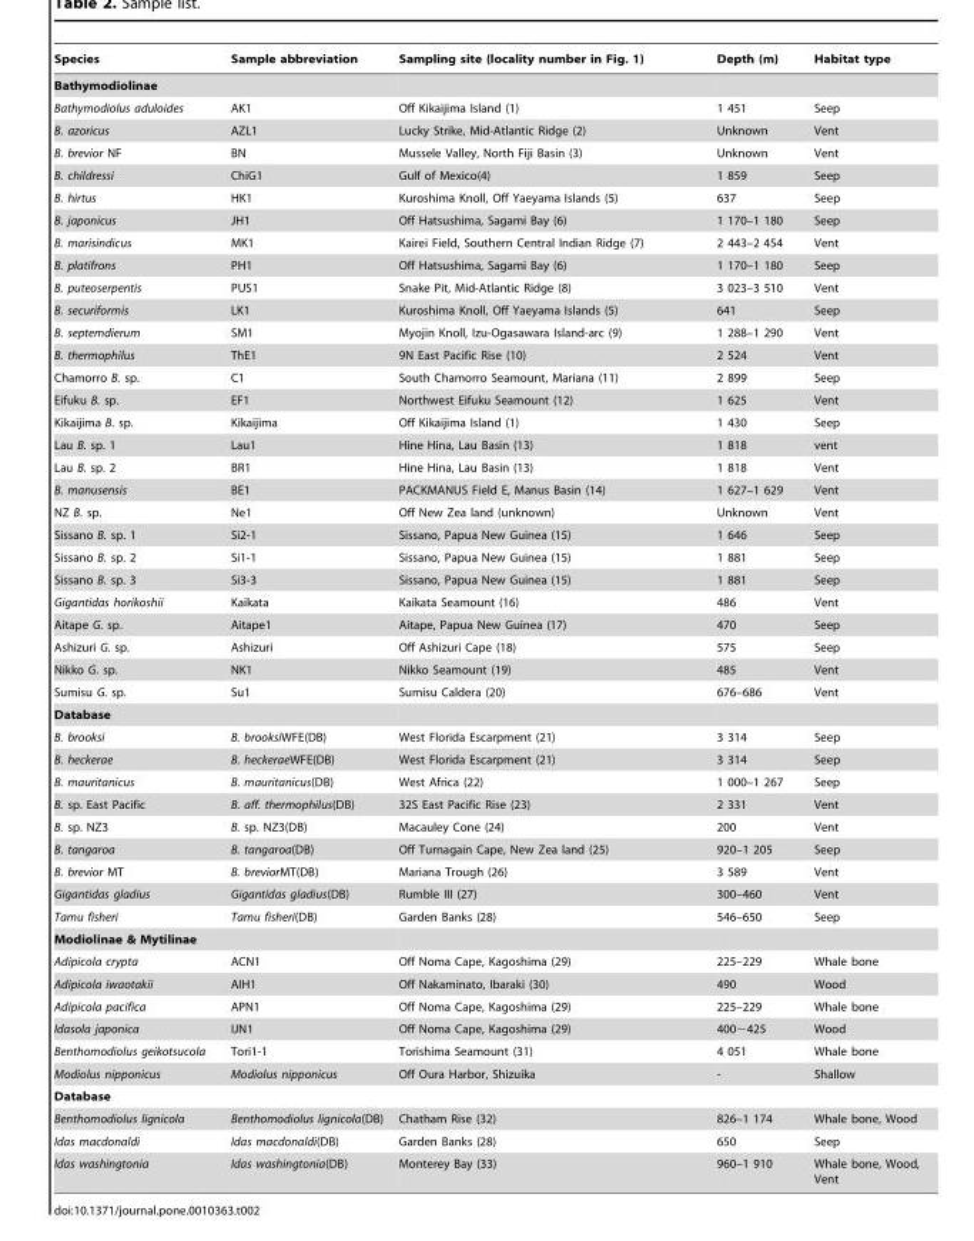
<table><thead><tr><td>Species</td><td>Sample abbreviation</td><td>Sampling site (locality number in Fig. 1)</td><td>Depth (m)</td><td>Habitat type</td></tr></thead><tbody><tr><td colspan="5">Bathymodiolinae</td></tr><tr><td>Bathymodiolus aduloides</td><td>AK1</td><td>Off Kikaijima Island (1)</td><td>1 451</td><td>Seep</td></tr><tr><td>B. azoricus</td><td>AZL1</td><td>Lucky Strike, Mid-Atlantic Ridge (2)</td><td>Unknown</td><td>Vent</td></tr><tr><td>B. brevior NF</td><td>BN</td><td>Mussele Valley, North Fiji Basin (3)</td><td>Unknown</td><td>Vent</td></tr><tr><td>B. childressi</td><td>ChiG1</td><td>Gulf of Mexico(4)</td><td>1 859</td><td>Seep</td></tr><tr><td>B. hirtus</td><td>HK1</td><td>Kuroshima Knoll, Off Yaeyama Islands (5)</td><td>637</td><td>Seep</td></tr><tr><td>B. japonicus</td><td>JH1</td><td>Off Hatsushima, Sagami Bay (6)</td><td>1 170–1 180</td><td>Seep</td></tr><tr><td>B. marisindicus</td><td>MK1</td><td>Kairei Field, Southern Central Indian Ridge (7)</td><td>2 443–2 454</td><td>Vent</td></tr><tr><td>B. platifrons</td><td>PH1</td><td>Off Hatsushima, Sagami Bay (6)</td><td>1 170–1 180</td><td>Seep</td></tr><tr><td>B. puteoserpentis</td><td>PUS1</td><td>Snake Pit, Mid-Atlantic Ridge (8)</td><td>3 023–3 510</td><td>Vent</td></tr><tr><td>B. securiformis</td><td>LK1</td><td>Kuroshima Knoll, Off Yaeyama Islands (5)</td><td>641</td><td>Seep</td></tr><tr><td>B. septemdierum</td><td>SM1</td><td>Myojin Knoll, Izu-Ogasawara Island-arc (9)</td><td>1 288–1 290</td><td>Vent</td></tr><tr><td>B. thermophilus</td><td>ThE1</td><td>9N East Pacific Rise (10)</td><td>2 524</td><td>Vent</td></tr><tr><td>Chamorro B. sp.</td><td>C1</td><td>South Chamorro Seamount, Mariana (11)</td><td>2 899</td><td>Seep</td></tr><tr><td>Eifuku B. sp.</td><td>EF1</td><td>Northwest Eifuku Seamount (12)</td><td>1 625</td><td>Vent</td></tr><tr><td>Kikaijima B. sp.</td><td>Kikaijima</td><td>Off Kikaijima Island (1)</td><td>1 430</td><td>Seep</td></tr><tr><td>Lau B. sp. 1</td><td>Lau1</td><td>Hine Hina, Lau Basin (13)</td><td>1 818</td><td>vent</td></tr><tr><td>Lau B. sp. 2</td><td>BR1</td><td>Hine Hina, Lau Basin (13)</td><td>1 818</td><td>Vent</td></tr><tr><td>B. manusensis</td><td>BE1</td><td>PACKMANUS Field E, Manus Basin (14)</td><td>1 627–1 629</td><td>Vent</td></tr><tr><td>NZ B. sp.</td><td>Ne1</td><td>Off New Zea land (unknown)</td><td>Unknown</td><td>Vent</td></tr><tr><td>Sissano B. sp. 1</td><td>Si2-1</td><td>Sissano, Papua New Guinea (15)</td><td>1 646</td><td>Seep</td></tr><tr><td>Sissano B. sp. 2</td><td>Si1-1</td><td>Sissano, Papua New Guinea (15)</td><td>1 881</td><td>Seep</td></tr><tr><td>Sissano B. sp. 3</td><td>Si3-3</td><td>Sissano, Papua New Guinea (15)</td><td>1 881</td><td>Seep</td></tr><tr><td>Gigantidas horikoshii</td><td>Kaikata</td><td>Kaikata Seamount (16)</td><td>486</td><td>Vent</td></tr><tr><td>Aitape G. sp.</td><td>Aitape1</td><td>Aitape, Papua New Guinea (17)</td><td>470</td><td>Seep</td></tr><tr><td>Ashizuri G. sp.</td><td>Ashizuri</td><td>Off Ashizuri Cape (18)</td><td>575</td><td>Seep</td></tr><tr><td>Nikko G. sp.</td><td>NK1</td><td>Nikko Seamount (19)</td><td>485</td><td>Vent</td></tr><tr><td>Sumisu G. sp.</td><td>Su1</td><td>Sumisu Caldera (20)</td><td>676–686</td><td>Vent</td></tr><tr><td colspan="5">Database</td></tr><tr><td>B. brooksi</td><td>B. brooksiWFE(DB)</td><td>West Florida Escarpment (21)</td><td>3 314</td><td>Seep</td></tr><tr><td>B. heckerae</td><td>B. heckeraeWFE(DB)</td><td>West Florida Escarpment (21)</td><td>3 314</td><td>Seep</td></tr><tr><td>B. mauritanicus</td><td>B. mauritanicus(DB)</td><td>West Africa (22)</td><td>1 000–1 267</td><td>Seep</td></tr><tr><td>B. sp. East Pacific</td><td>B. aff. thermophilus(DB)</td><td>32S East Pacific Rise (23)</td><td>2 331</td><td>Vent</td></tr><tr><td>B. sp. NZ3</td><td>B. sp. NZ3(DB)</td><td>Macauley Cone (24)</td><td>200</td><td>Vent</td></tr><tr><td>B. tangaroa</td><td>B. tangaroa(DB)</td><td>Off Turnagain Cape, New Zea land (25)</td><td>920–1 205</td><td>Seep</td></tr><tr><td>B. brevior MT</td><td>B. breviorMT(DB)</td><td>Mariana Trough (26)</td><td>3 589</td><td>Vent</td></tr><tr><td>Gigantidas gladius</td><td>Gigantidas gladius(DB)</td><td>Rumble III (27)</td><td>300–460</td><td>Vent</td></tr><tr><td>Tamu fisheri</td><td>Tamu fisheri(DB)</td><td>Garden Banks (28)</td><td>546–650</td><td>Seep</td></tr><tr><td colspan="5">Modiolinae &amp; Mytilinae</td></tr><tr><td>Adipicola crypta</td><td>ACN1</td><td>Off Noma Cape, Kagoshima (29)</td><td>225–229</td><td>Whale bone</td></tr><tr><td>Adipicola iwaotakii</td><td>AIH1</td><td>Off Nakaminato, Ibaraki (30)</td><td>490</td><td>Wood</td></tr><tr><td>Adipicola pacifica</td><td>APN1</td><td>Off Noma Cape, Kagoshima (29)</td><td>225–229</td><td>Whale bone</td></tr><tr><td>Idasola japonica</td><td>IJN1</td><td>Off Noma Cape, Kagoshima (29)</td><td>400∼425</td><td>Wood</td></tr><tr><td>Benthomodiolus geikotsucola</td><td>Tori1-1</td><td>Torishima Seamount (31)</td><td>4 051</td><td>Whale bone</td></tr><tr><td>Modiolus nipponicus</td><td>Modiolus nipponicus</td><td>Off Oura Harbor, Shizuika</td><td>-</td><td>Shallow</td></tr><tr><td colspan="5">Database</td></tr><tr><td>Benthomodiolus lignicola</td><td>Benthomodiolus lignicola(DB)</td><td>Chatham Rise (32)</td><td>826–1 174</td><td>Whale bone, Wood</td></tr><tr><td>Idas macdonaldi</td><td>Idas macdonaldi(DB)</td><td>Garden Banks (28)</td><td>650</td><td>Seep</td></tr><tr><td>Idas washingtonia</td><td>Idas washingtonia(DB)</td><td>Monterey Bay (33)</td><td>960–1 910</td><td>Whale bone, Wood, Vent</td></tr></tbody></table>